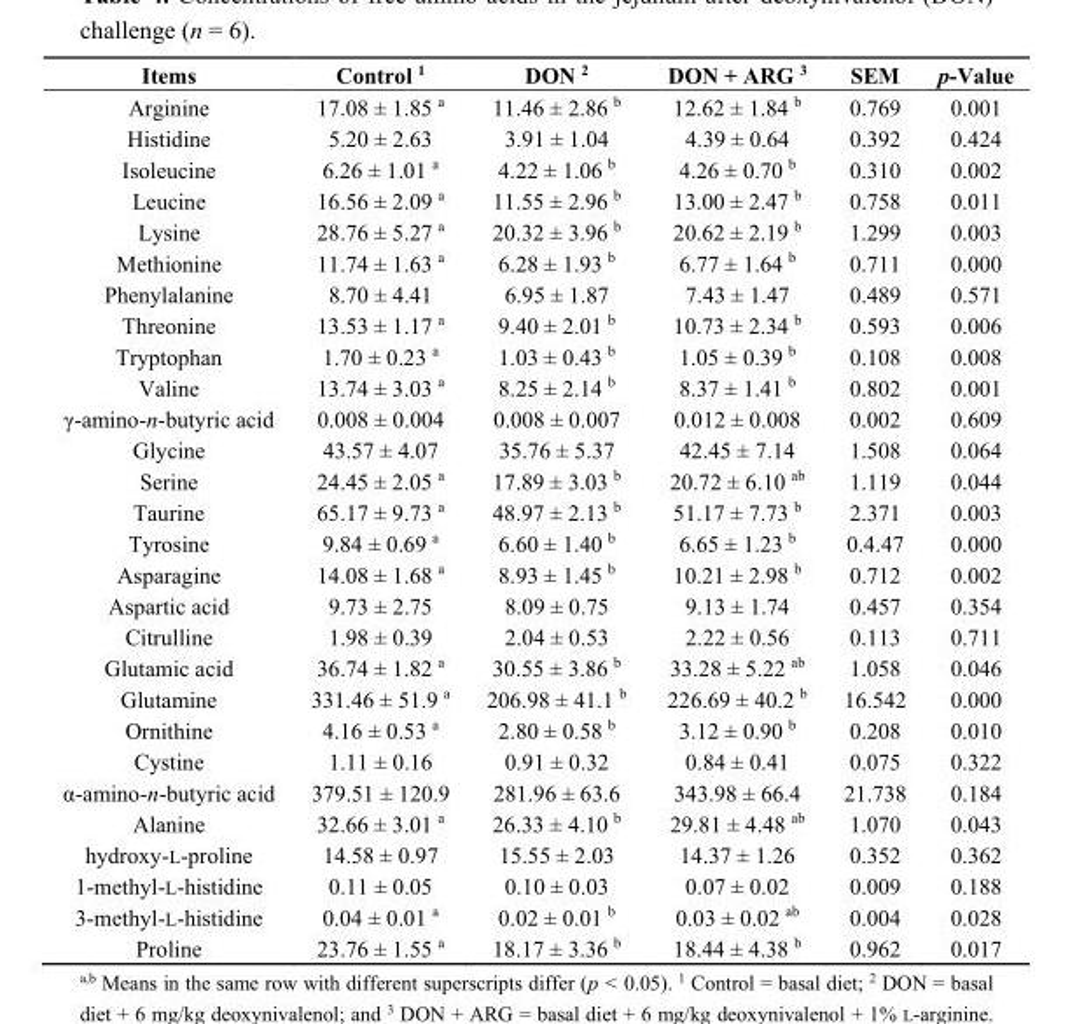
<table><thead><tr><td>Items</td><td>Control <sup>1</sup></td><td>DON <sup>2</sup></td><td>DON + ARG <sup>3</sup></td><td>SEM</td><td>p-Value</td></tr></thead><tbody><tr><td>Arginine</td><td>17.08 ± 1.85 <sup>a</sup></td><td>11.46 ± 2.86 <sup>b</sup></td><td>12.62 ± 1.84 <sup>b</sup></td><td>0.769</td><td>0.001</td></tr><tr><td>Histidine</td><td>5.20 ± 2.63</td><td>3.91 ± 1.04</td><td>4.39 ± 0.64</td><td>0.392</td><td>0.424</td></tr><tr><td>Isoleucine</td><td>6.26 ± 1.01 <sup>a</sup></td><td>4.22 ± 1.06 <sup>b</sup></td><td>4.26 ± 0.70 <sup>b</sup></td><td>0.310</td><td>0.002</td></tr><tr><td>Leucine</td><td>16.56 ± 2.09 <sup>a</sup></td><td>11.55 ± 2.96 <sup>b</sup></td><td>13.00 ± 2.47 <sup>b</sup></td><td>0.758</td><td>0.011</td></tr><tr><td>Lysine</td><td>28.76 ± 5.27 <sup>a</sup></td><td>20.32 ± 3.96 <sup>b</sup></td><td>20.62 ± 2.19 <sup>b</sup></td><td>1.299</td><td>0.003</td></tr><tr><td>Methionine</td><td>11.74 ± 1.63 <sup>a</sup></td><td>6.28 ± 1.93 <sup>b</sup></td><td>6.77 ± 1.64 <sup>b</sup></td><td>0.711</td><td>0.000</td></tr><tr><td>Phenylalanine</td><td>8.70 ± 4.41</td><td>6.95 ± 1.87</td><td>7.43 ± 1.47</td><td>0.489</td><td>0.571</td></tr><tr><td>Threonine</td><td>13.53 ± 1.17 <sup>a</sup></td><td>9.40 ± 2.01 <sup>b</sup></td><td>10.73 ± 2.34 <sup>b</sup></td><td>0.593</td><td>0.006</td></tr><tr><td>Tryptophan</td><td>1.70 ± 0.23 <sup>a</sup></td><td>1.03 ± 0.43 <sup>b</sup></td><td>1.05 ± 0.39 <sup>b</sup></td><td>0.108</td><td>0.008</td></tr><tr><td>Valine</td><td>13.74 ± 3.03 <sup>a</sup></td><td>8.25 ± 2.14 <sup>b</sup></td><td>8.37 ± 1.41 <sup>b</sup></td><td>0.802</td><td>0.001</td></tr><tr><td>γ-amino-n-butyric acid</td><td>0.008 ± 0.004</td><td>0.008 ± 0.007</td><td>0.012 ± 0.008</td><td>0.002</td><td>0.609</td></tr><tr><td>Glycine</td><td>43.57 ± 4.07</td><td>35.76 ± 5.37</td><td>42.45 ± 7.14</td><td>1.508</td><td>0.064</td></tr><tr><td>Serine</td><td>24.45 ± 2.05 <sup>a</sup></td><td>17.89 ± 3.03 <sup>b</sup></td><td>20.72 ± 6.10 <sup>ab</sup></td><td>1.119</td><td>0.044</td></tr><tr><td>Taurine</td><td>65.17 ± 9.73 <sup>a</sup></td><td>48.97 ± 2.13 <sup>b</sup></td><td>51.17 ± 7.73 <sup>b</sup></td><td>2.371</td><td>0.003</td></tr><tr><td>Tyrosine</td><td>9.84 ± 0.69 <sup>a</sup></td><td>6.60 ± 1.40 <sup>b</sup></td><td>6.65 ± 1.23 <sup>b</sup></td><td>0.4.47</td><td>0.000</td></tr><tr><td>Asparagine</td><td>14.08 ± 1.68 <sup>a</sup></td><td>8.93 ± 1.45 <sup>b</sup></td><td>10.21 ± 2.98 <sup>b</sup></td><td>0.712</td><td>0.002</td></tr><tr><td>Aspartic acid</td><td>9.73 ± 2.75</td><td>8.09 ± 0.75</td><td>9.13 ± 1.74</td><td>0.457</td><td>0.354</td></tr><tr><td>Citrulline</td><td>1.98 ± 0.39</td><td>2.04 ± 0.53</td><td>2.22 ± 0.56</td><td>0.113</td><td>0.711</td></tr><tr><td>Glutamic acid</td><td>36.74 ± 1.82 <sup>a</sup></td><td>30.55 ± 3.86 <sup>b</sup></td><td>33.28 ± 5.22 <sup>ab</sup></td><td>1.058</td><td>0.046</td></tr><tr><td>Glutamine</td><td>331.46 ± 51.9 <sup>a</sup></td><td>206.98 ± 41.1 <sup>b</sup></td><td>226.69 ± 40.2 <sup>b</sup></td><td>16.542</td><td>0.000</td></tr><tr><td>Ornithine</td><td>4.16 ± 0.53 <sup>a</sup></td><td>2.80 ± 0.58 <sup>b</sup></td><td>3.12 ± 0.90 <sup>b</sup></td><td>0.208</td><td>0.010</td></tr><tr><td>Cystine</td><td>1.11 ± 0.16</td><td>0.91 ± 0.32</td><td>0.84 ± 0.41</td><td>0.075</td><td>0.322</td></tr><tr><td>α-amino-n-butyric acid</td><td>379.51 ± 120.9</td><td>281.96 ± 63.6</td><td>343.98 ± 66.4</td><td>21.738</td><td>0.184</td></tr><tr><td>Alanine</td><td>32.66 ± 3.01 <sup>a</sup></td><td>26.33 ± 4.10 <sup>b</sup></td><td>29.81 ± 4.48 <sup>ab</sup></td><td>1.070</td><td>0.043</td></tr><tr><td>hydroxy-L-proline</td><td>14.58 ± 0.97</td><td>15.55 ± 2.03</td><td>14.37 ± 1.26</td><td>0.352</td><td>0.362</td></tr><tr><td>1-methyl-L-histidine</td><td>0.11 ± 0.05</td><td>0.10 ± 0.03</td><td>0.07 ± 0.02</td><td>0.009</td><td>0.188</td></tr><tr><td>3-methyl-L-histidine</td><td>0.04 ± 0.01 <sup>a</sup></td><td>0.02 ± 0.01 <sup>b</sup></td><td>0.03 ± 0.02 <sup>ab</sup></td><td>0.004</td><td>0.028</td></tr><tr><td>Proline</td><td>23.76 ± 1.55 <sup>a</sup></td><td>18.17 ± 3.36 <sup>b</sup></td><td>18.44 ± 4.38 <sup>b</sup></td><td>0.962</td><td>0.017</td></tr></tbody></table>